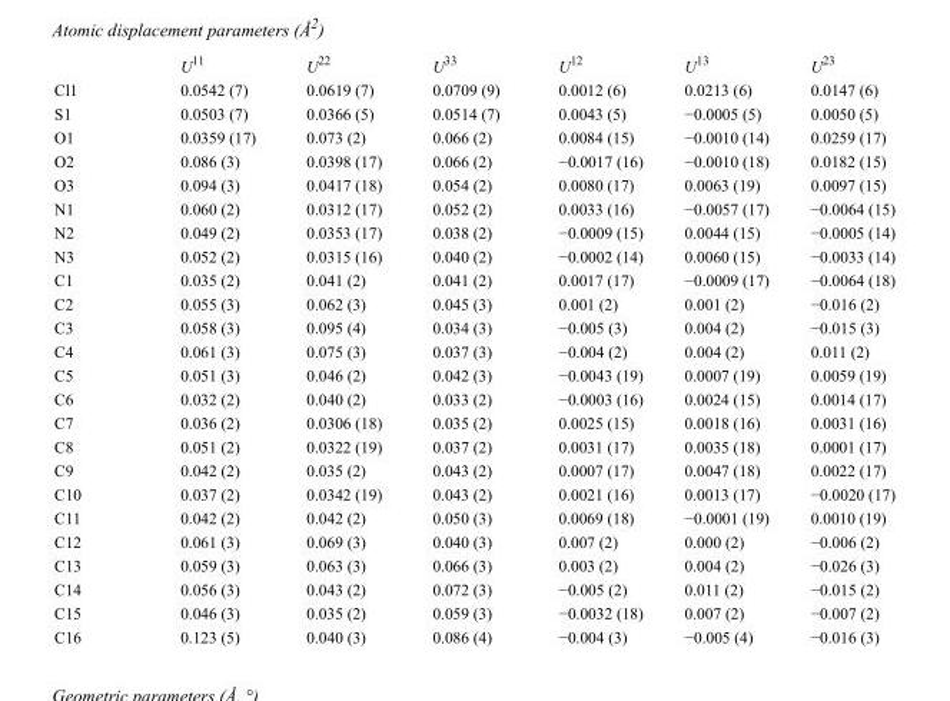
<table><thead><tr><td></td><td>U<sup>11</sup></td><td>U<sup>22</sup></td><td>U<sup>33</sup></td><td>U<sup>12</sup></td><td>U<sup>13</sup></td><td>U<sup>23</sup></td></tr></thead><tbody><tr><td>Cl1</td><td>0.0542 (7)</td><td>0.0619 (7)</td><td>0.0709 (9)</td><td>0.0012 (6)</td><td>0.0213 (6)</td><td>0.0147 (6)</td></tr><tr><td>S1</td><td>0.0503 (7)</td><td>0.0366 (5)</td><td>0.0514 (7)</td><td>0.0043 (5)</td><td>−0.0005 (5)</td><td>0.0050 (5)</td></tr><tr><td>O1</td><td>0.0359 (17)</td><td>0.073 (2)</td><td>0.066 (2)</td><td>0.0084 (15)</td><td>−0.0010 (14)</td><td>0.0259 (17)</td></tr><tr><td>O2</td><td>0.086 (3)</td><td>0.0398 (17)</td><td>0.066 (2)</td><td>−0.0017 (16)</td><td>−0.0010 (18)</td><td>0.0182 (15)</td></tr><tr><td>O3</td><td>0.094 (3)</td><td>0.0417 (18)</td><td>0.054 (2)</td><td>0.0080 (17)</td><td>0.0063 (19)</td><td>0.0097 (15)</td></tr><tr><td>N1</td><td>0.060 (2)</td><td>0.0312 (17)</td><td>0.052 (2)</td><td>0.0033 (16)</td><td>−0.0057 (17)</td><td>−0.0064 (15)</td></tr><tr><td>N2</td><td>0.049 (2)</td><td>0.0353 (17)</td><td>0.038 (2)</td><td>−0.0009 (15)</td><td>0.0044 (15)</td><td>−0.0005 (14)</td></tr><tr><td>N3</td><td>0.052 (2)</td><td>0.0315 (16)</td><td>0.040 (2)</td><td>−0.0002 (14)</td><td>0.0060 (15)</td><td>−0.0033 (14)</td></tr><tr><td>C1</td><td>0.035 (2)</td><td>0.041 (2)</td><td>0.041 (2)</td><td>0.0017 (17)</td><td>−0.0009 (17)</td><td>−0.0064 (18)</td></tr><tr><td>C2</td><td>0.055 (3)</td><td>0.062 (3)</td><td>0.045 (3)</td><td>0.001 (2)</td><td>0.001 (2)</td><td>−0.016 (2)</td></tr><tr><td>C3</td><td>0.058 (3)</td><td>0.095 (4)</td><td>0.034 (3)</td><td>−0.005 (3)</td><td>0.004 (2)</td><td>−0.015 (3)</td></tr><tr><td>C4</td><td>0.061 (3)</td><td>0.075 (3)</td><td>0.037 (3)</td><td>−0.004 (2)</td><td>0.004 (2)</td><td>0.011 (2)</td></tr><tr><td>C5</td><td>0.051 (3)</td><td>0.046 (2)</td><td>0.042 (3)</td><td>−0.0043 (19)</td><td>0.0007 (19)</td><td>0.0059 (19)</td></tr><tr><td>C6</td><td>0.032 (2)</td><td>0.040 (2)</td><td>0.033 (2)</td><td>−0.0003 (16)</td><td>0.0024 (15)</td><td>0.0014 (17)</td></tr><tr><td>C7</td><td>0.036 (2)</td><td>0.0306 (18)</td><td>0.035 (2)</td><td>0.0025 (15)</td><td>0.0018 (16)</td><td>0.0031 (16)</td></tr><tr><td>C8</td><td>0.051 (2)</td><td>0.0322 (19)</td><td>0.037 (2)</td><td>0.0031 (17)</td><td>0.0035 (18)</td><td>0.0001 (17)</td></tr><tr><td>C9</td><td>0.042 (2)</td><td>0.035 (2)</td><td>0.043 (2)</td><td>0.0007 (17)</td><td>0.0047 (18)</td><td>0.0022 (17)</td></tr><tr><td>C10</td><td>0.037 (2)</td><td>0.0342 (19)</td><td>0.043 (2)</td><td>0.0021 (16)</td><td>0.0013 (17)</td><td>−0.0020 (17)</td></tr><tr><td>C11</td><td>0.042 (2)</td><td>0.042 (2)</td><td>0.050 (3)</td><td>0.0069 (18)</td><td>−0.0001 (19)</td><td>0.0010 (19)</td></tr><tr><td>C12</td><td>0.061 (3)</td><td>0.069 (3)</td><td>0.040 (3)</td><td>0.007 (2)</td><td>0.000 (2)</td><td>−0.006 (2)</td></tr><tr><td>C13</td><td>0.059 (3)</td><td>0.063 (3)</td><td>0.066 (3)</td><td>0.003 (2)</td><td>0.004 (2)</td><td>−0.026 (3)</td></tr><tr><td>C14</td><td>0.056 (3)</td><td>0.043 (2)</td><td>0.072 (3)</td><td>−0.005 (2)</td><td>0.011 (2)</td><td>−0.015 (2)</td></tr><tr><td>C15</td><td>0.046 (3)</td><td>0.035 (2)</td><td>0.059 (3)</td><td>−0.0032 (18)</td><td>0.007 (2)</td><td>−0.007 (2)</td></tr><tr><td>C16</td><td>0.123 (5)</td><td>0.040 (3)</td><td>0.086 (4)</td><td>−0.004 (3)</td><td>−0.005 (4)</td><td>−0.016 (3)</td></tr></tbody></table>